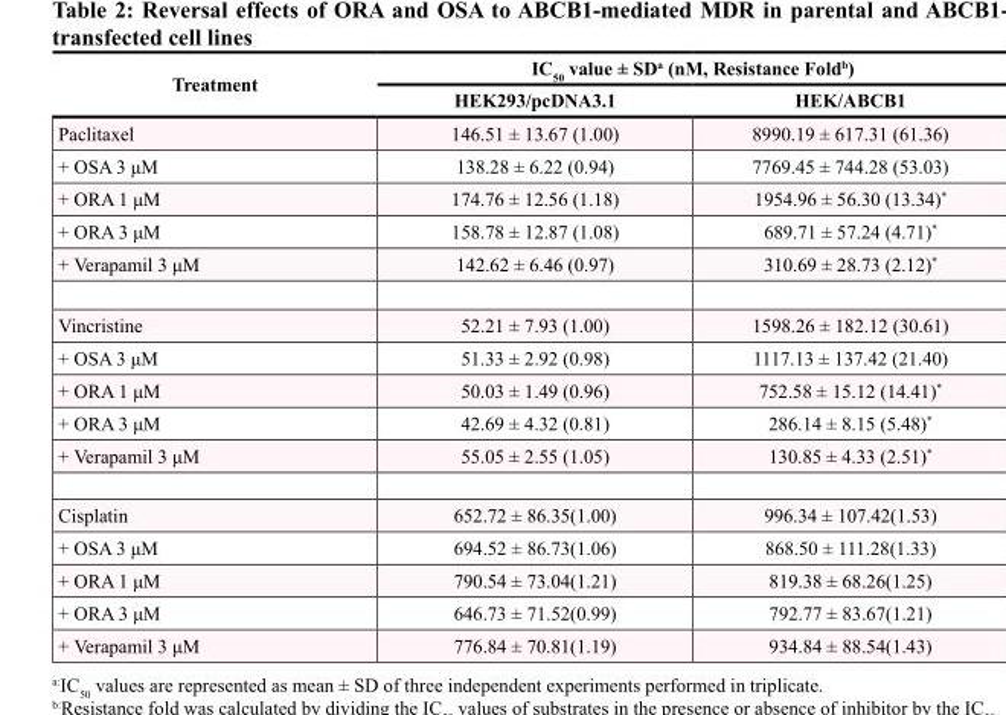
<table><thead><tr><td rowspan="2">Treatment</td><td colspan="2">IC<sub>50</sub> value ± SD<sup>a</sup> (nM, Resistance Fold<sup>b</sup>)</td></tr><tr><td>HEK293/pcDNA3.1</td><td>HEK/ABCB1</td></tr></thead><tbody><tr><td>Paclitaxel</td><td>146.51 ± 13.67 (1.00)</td><td>8990.19 ± 617.31 (61.36)</td></tr><tr><td>+ OSA 3 μM</td><td>138.28 ± 6.22 (0.94)</td><td>7769.45 ± 744.28 (53.03)</td></tr><tr><td>+ ORA 1 μM</td><td>174.76 ± 12.56 (1.18)</td><td>1954.96 ± 56.30 (13.34)*</td></tr><tr><td>+ ORA 3 μM</td><td>158.78 ± 12.87 (1.08)</td><td>689.71 ± 57.24 (4.71)*</td></tr><tr><td>+ Verapamil 3 μM</td><td>142.62 ± 6.46 (0.97)</td><td>310.69 ± 28.73 (2.12)*</td></tr><tr><td>Vincristine</td><td>52.21 ± 7.93 (1.00)</td><td>1598.26 ± 182.12 (30.61)</td></tr><tr><td>+ OSA 3 μM</td><td>51.33 ± 2.92 (0.98)</td><td>1117.13 ± 137.42 (21.40)</td></tr><tr><td>+ ORA 1 μM</td><td>50.03 ± 1.49 (0.96)</td><td>752.58 ± 15.12 (14.41)*</td></tr><tr><td>+ ORA 3 μM</td><td>42.69 ± 4.32 (0.81)</td><td>286.14 ± 8.15 (5.48)*</td></tr><tr><td>+ Verapamil 3 μM</td><td>55.05 ± 2.55 (1.05)</td><td>130.85 ± 4.33 (2.51)*</td></tr><tr><td>Cisplatin</td><td>652.72 ± 86.35(1.00)</td><td>996.34 ± 107.42(1.53)</td></tr><tr><td>+ OSA 3 μM</td><td>694.52 ± 86.73(1.06)</td><td>868.50 ± 111.28(1.33)</td></tr><tr><td>+ ORA 1 μM</td><td>790.54 ± 73.04(1.21)</td><td>819.38 ± 68.26(1.25)</td></tr><tr><td>+ ORA 3 μM</td><td>646.73 ± 71.52(0.99)</td><td>792.77 ± 83.67(1.21)</td></tr><tr><td>+ Verapamil 3 μM</td><td>776.84 ± 70.81(1.19)</td><td>934.84 ± 88.54(1.43)</td></tr></tbody></table>